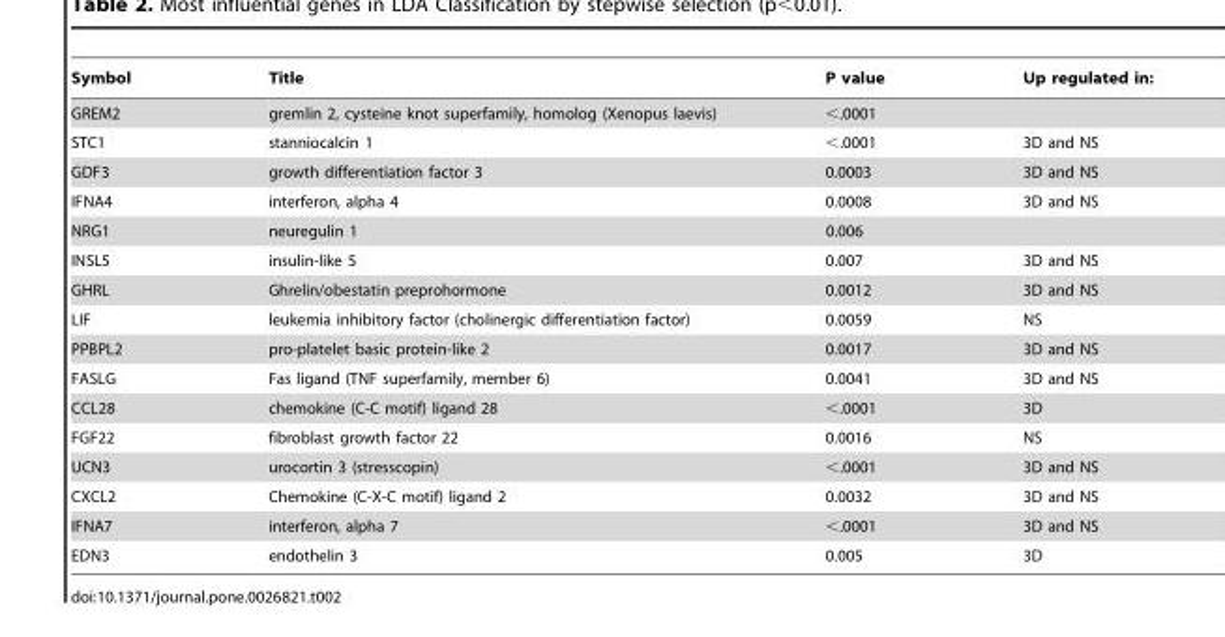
<table><thead><tr><td>Symbol</td><td>Title</td><td>P value</td><td>Up regulated in:</td></tr></thead><tbody><tr><td>GREM2</td><td>gremlin 2, cysteine knot superfamily, homolog (Xenopus laevis)</td><td>&lt;.0001</td><td></td></tr><tr><td>STC1</td><td>stanniocalcin 1</td><td>&lt;.0001</td><td>3D and NS</td></tr><tr><td>GDF3</td><td>growth differentiation factor 3</td><td>0.0003</td><td>3D and NS</td></tr><tr><td>IFNA4</td><td>interferon, alpha 4</td><td>0.0008</td><td>3D and NS</td></tr><tr><td>NRG1</td><td>neuregulin 1</td><td>0.006</td><td></td></tr><tr><td>INSL5</td><td>insulin-like 5</td><td>0.007</td><td>3D and NS</td></tr><tr><td>GHRL</td><td>Ghrelin/obestatin preprohormone</td><td>0.0012</td><td>3D and NS</td></tr><tr><td>LIF</td><td>leukemia inhibitory factor (cholinergic differentiation factor)</td><td>0.0059</td><td>NS</td></tr><tr><td>PPBPL2</td><td>pro-platelet basic protein-like 2</td><td>0.0017</td><td>3D and NS</td></tr><tr><td>FASLG</td><td>Fas ligand (TNF superfamily, member 6)</td><td>0.0041</td><td>3D and NS</td></tr><tr><td>CCL28</td><td>chemokine (C-C motif) ligand 28</td><td>&lt;.0001</td><td>3D</td></tr><tr><td>FGF22</td><td>fibroblast growth factor 22</td><td>0.0016</td><td>NS</td></tr><tr><td>UCN3</td><td>urocortin 3 (stresscopin)</td><td>&lt;.0001</td><td>3D and NS</td></tr><tr><td>CXCL2</td><td>Chemokine (C-X-C motif) ligand 2</td><td>0.0032</td><td>3D and NS</td></tr><tr><td>IFNA7</td><td>interferon, alpha 7</td><td>&lt;.0001</td><td>3D and NS</td></tr><tr><td>EDN3</td><td>endothelin 3</td><td>0.005</td><td>3D</td></tr></tbody></table>